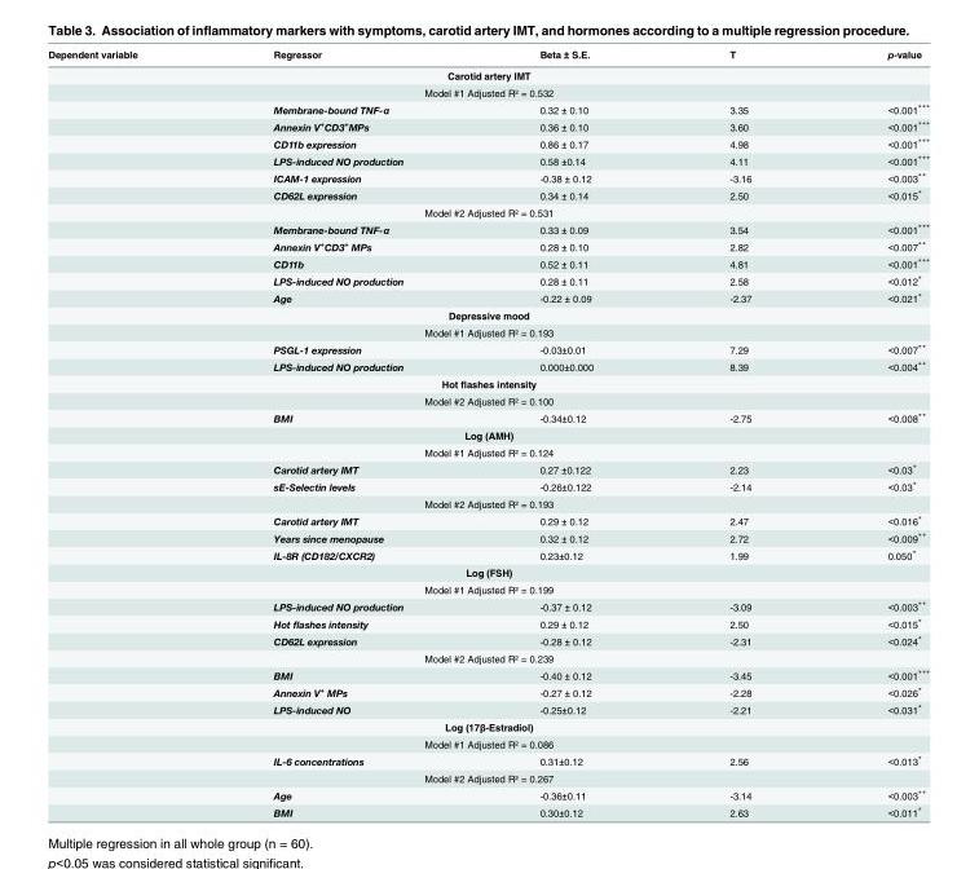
<table><thead><tr><td>Dependent variable</td><td>Regressor</td><td>Beta ± S.E.</td><td>T</td><td>p-value</td></tr></thead><tbody><tr><td colspan="5">Carotid artery IMT</td></tr><tr><td colspan="5">Model #1 Adjusted R² = 0.532</td></tr><tr><td></td><td>Membrane-bound TNF-α</td><td>0.32 ± 0.10</td><td>3.35</td><td>&lt;0.001***</td></tr><tr><td></td><td>Annexin V<sup>+</sup>CD3<sup>+</sup>MPs</td><td>0.36 ± 0.10</td><td>3.60</td><td>&lt;0.001***</td></tr><tr><td></td><td>CD11b expression</td><td>0.86 ± 0.17</td><td>4.98</td><td>&lt;0.001***</td></tr><tr><td></td><td>LPS-induced NO production</td><td>0.58 ±0.14</td><td>4.11</td><td>&lt;0.001***</td></tr><tr><td></td><td>ICAM-1 expression</td><td>-0.38 ± 0.12</td><td>-3.16</td><td>&lt;0.003**</td></tr><tr><td></td><td>CD62L expression</td><td>0.34 ± 0.14</td><td>2.50</td><td>&lt;0.015*</td></tr><tr><td colspan="5">Model #2 Adjusted R² = 0.531</td></tr><tr><td></td><td>Membrane-bound TNF-α</td><td>0.33 ± 0.09</td><td>3.54</td><td>&lt;0.001***</td></tr><tr><td></td><td>Annexin V<sup>+</sup>CD3<sup>+</sup> MPs</td><td>0.28 ± 0.10</td><td>2.82</td><td>&lt;0.007**</td></tr><tr><td></td><td>CD11b</td><td>0.52 ± 0.11</td><td>4.81</td><td>&lt;0.001***</td></tr><tr><td></td><td>LPS-induced NO production</td><td>0.28 ± 0.11</td><td>2.58</td><td>&lt;0.012*</td></tr><tr><td></td><td>Age</td><td>-0.22 ± 0.09</td><td>-2.37</td><td>&lt;0.021*</td></tr><tr><td colspan="5">Depressive mood</td></tr><tr><td colspan="5">Model #1 Adjusted R² = 0.193</td></tr><tr><td></td><td>PSGL-1 expression</td><td>-0.03±0.01</td><td>7.29</td><td>&lt;0.007**</td></tr><tr><td></td><td>LPS-induced NO production</td><td>0.000±0.000</td><td>8.39</td><td>&lt;0.004**</td></tr><tr><td colspan="5">Hot flashes intensity</td></tr><tr><td colspan="5">Model #2 Adjusted R² = 0.100</td></tr><tr><td></td><td>BMI</td><td>-0.34±0.12</td><td>-2.75</td><td>&lt;0.008**</td></tr><tr><td colspan="5">Log (AMH)</td></tr><tr><td colspan="5">Model #1 Adjusted R² = 0.124</td></tr><tr><td></td><td>Carotid artery IMT</td><td>0.27 ±0.122</td><td>2.23</td><td>&lt;0.03*</td></tr><tr><td></td><td>sE-Selectin levels</td><td>-0.26±0.122</td><td>-2.14</td><td>&lt;0.03*</td></tr><tr><td colspan="5">Model #2 Adjusted R² = 0.193</td></tr><tr><td></td><td>Carotid artery IMT</td><td>0.29 ± 0.12</td><td>2.47</td><td>&lt;0.016*</td></tr><tr><td></td><td>Years since menopause</td><td>0.32 ± 0.12</td><td>2.72</td><td>&lt;0.009**</td></tr><tr><td></td><td>IL-8R (CD182/CXCR2)</td><td>0.23±0.12</td><td>1.99</td><td>0.050*</td></tr><tr><td colspan="5">Log (FSH)</td></tr><tr><td colspan="5">Model #1 Adjusted R² = 0.199</td></tr><tr><td></td><td>LPS-induced NO production</td><td>-0.37 ± 0.12</td><td>-3.09</td><td>&lt;0.003**</td></tr><tr><td></td><td>Hot flashes intensity</td><td>0.29 ± 0.12</td><td>2.50</td><td>&lt;0.015*</td></tr><tr><td></td><td>CD62L expression</td><td>-0.28 ± 0.12</td><td>-2.31</td><td>&lt;0.024*</td></tr><tr><td colspan="5">Model #2 Adjusted R² = 0.239</td></tr><tr><td></td><td>BMI</td><td>-0.40 ± 0.12</td><td>-3.45</td><td>&lt;0.001***</td></tr><tr><td></td><td>Annexin V<sup>+</sup> MPs</td><td>-0.27 ± 0.12</td><td>-2.28</td><td>&lt;0.026*</td></tr><tr><td></td><td>LPS-induced NO</td><td>-0.25±0.12</td><td>-2.21</td><td>&lt;0.031*</td></tr><tr><td colspan="5">Log (17β-Estradiol)</td></tr><tr><td colspan="5">Model #1 Adjusted R² = 0.086</td></tr><tr><td></td><td>IL-6 concentrations</td><td>0.31±0.12</td><td>2.56</td><td>&lt;0.013*</td></tr><tr><td colspan="5">Model #2 Adjusted R² = 0.267</td></tr><tr><td></td><td>Age</td><td>-0.36±0.11</td><td>-3.14</td><td>&lt;0.003**</td></tr><tr><td></td><td>BMI</td><td>0.30±0.12</td><td>2.63</td><td>&lt;0.011*</td></tr></tbody></table>